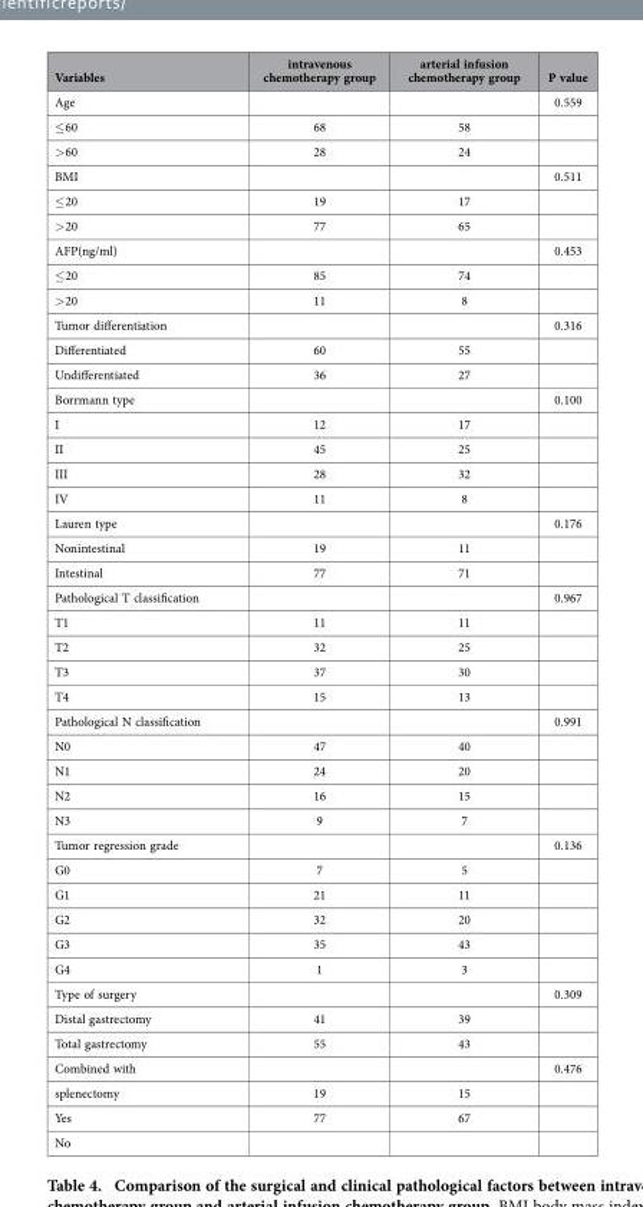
<table><thead><tr><td>Variables</td><td>intravenous chemotherapy group</td><td>arterial infusion chemotherapy group</td><td>P value</td></tr></thead><tbody><tr><td>Age</td><td></td><td></td><td>0.559</td></tr><tr><td>≤ 60</td><td>68</td><td>58</td><td></td></tr><tr><td>&gt; 60</td><td>28</td><td>24</td><td></td></tr><tr><td>BMI</td><td></td><td></td><td>0.511</td></tr><tr><td>≤ 20</td><td>19</td><td>17</td><td></td></tr><tr><td>&gt; 20</td><td>77</td><td>65</td><td></td></tr><tr><td>AFP(ng/ml)</td><td></td><td></td><td>0.453</td></tr><tr><td>≤ 20</td><td>85</td><td>74</td><td></td></tr><tr><td>&gt; 20</td><td>11</td><td>8</td><td></td></tr><tr><td>Tumor differentiation</td><td></td><td></td><td>0.316</td></tr><tr><td>Differentiated</td><td>60</td><td>55</td><td></td></tr><tr><td>Undifferentiated</td><td>36</td><td>27</td><td></td></tr><tr><td>Borrmann type</td><td></td><td></td><td>0.100</td></tr><tr><td>I</td><td>12</td><td>17</td><td></td></tr><tr><td>II</td><td>45</td><td>25</td><td></td></tr><tr><td>III</td><td>28</td><td>32</td><td></td></tr><tr><td>IV</td><td>11</td><td>8</td><td></td></tr><tr><td>Lauren type</td><td></td><td></td><td>0.176</td></tr><tr><td>Nonintestinal</td><td>19</td><td>11</td><td></td></tr><tr><td>Intestinal</td><td>77</td><td>71</td><td></td></tr><tr><td>Pathological T classification</td><td></td><td></td><td>0.967</td></tr><tr><td>T1</td><td>11</td><td>11</td><td></td></tr><tr><td>T2</td><td>32</td><td>25</td><td></td></tr><tr><td>T3</td><td>37</td><td>30</td><td></td></tr><tr><td>T4</td><td>15</td><td>13</td><td></td></tr><tr><td>Pathological N classification</td><td></td><td></td><td>0.991</td></tr><tr><td>N0</td><td>47</td><td>40</td><td></td></tr><tr><td>N1</td><td>24</td><td>20</td><td></td></tr><tr><td>N2</td><td>16</td><td>15</td><td></td></tr><tr><td>N3</td><td>9</td><td>7</td><td></td></tr><tr><td>Tumor regression grade</td><td></td><td></td><td>0.136</td></tr><tr><td>G0</td><td>7</td><td>5</td><td></td></tr><tr><td>G1</td><td>21</td><td>11</td><td></td></tr><tr><td>G2</td><td>32</td><td>20</td><td></td></tr><tr><td>G3</td><td>35</td><td>43</td><td></td></tr><tr><td>G4</td><td>1</td><td>3</td><td></td></tr><tr><td>Type of surgery</td><td></td><td></td><td>0.309</td></tr><tr><td>Distal gastrectomy</td><td>41</td><td>39</td><td></td></tr><tr><td>Total gastrectomy</td><td>55</td><td>43</td><td></td></tr><tr><td>Combined with</td><td></td><td></td><td>0.476</td></tr><tr><td>splenectomy</td><td>19</td><td>15</td><td></td></tr><tr><td>Yes</td><td>77</td><td>67</td><td></td></tr><tr><td>No</td><td></td><td></td><td></td></tr></tbody></table>